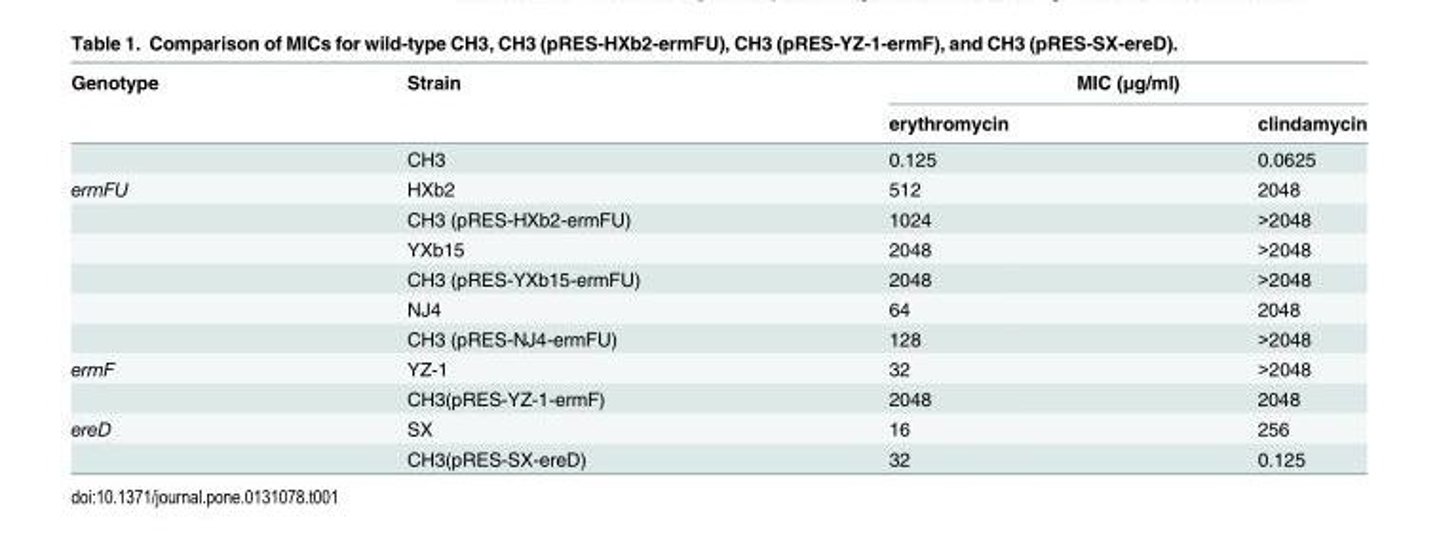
<table><thead><tr><td rowspan="2">Genotype</td><td rowspan="2">Strain</td><td colspan="2">MIC (μg/ml)</td></tr><tr><td>erythromycin</td><td>clindamycin</td></tr></thead><tbody><tr><td></td><td>CH3</td><td>0.125</td><td>0.0625</td></tr><tr><td rowspan="6">ermFU</td><td>HXb2</td><td>512</td><td>2048</td></tr><tr><td>CH3 (pRES-HXb2-ermFU)</td><td>1024</td><td>&gt;2048</td></tr><tr><td>YXb15</td><td>2048</td><td>&gt;2048</td></tr><tr><td>CH3 (pRES-YXb15-ermFU)</td><td>2048</td><td>&gt;2048</td></tr><tr><td>NJ4</td><td>64</td><td>2048</td></tr><tr><td>CH3 (pRES-NJ4-ermFU)</td><td>128</td><td>&gt;2048</td></tr><tr><td rowspan="2">ermF</td><td>YZ-1</td><td>32</td><td>&gt;2048</td></tr><tr><td>CH3(pRES-YZ-1-ermF)</td><td>2048</td><td>2048</td></tr><tr><td rowspan="2">ereD</td><td>SX</td><td>16</td><td>256</td></tr><tr><td>CH3(pRES-SX-ereD)</td><td>32</td><td>0.125</td></tr></tbody></table>